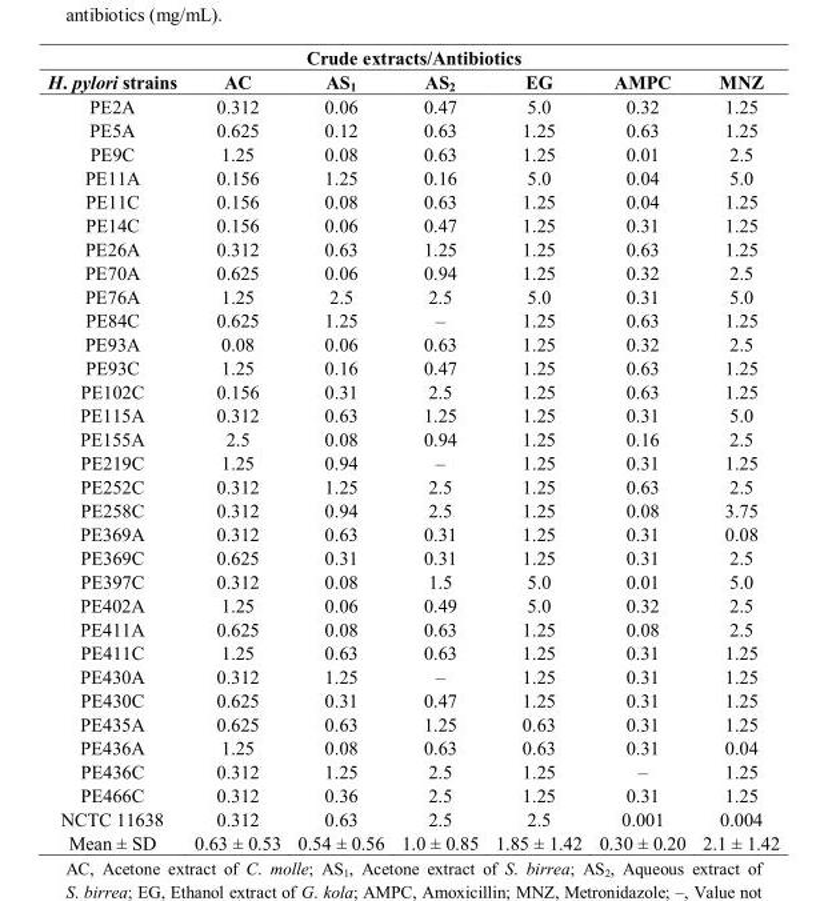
<table><thead><tr><td colspan="7">Crude extracts/Antibiotics</td></tr><tr><td>H. pylori strains</td><td>AC</td><td>AS<sub>1</sub></td><td>AS<sub>2</sub></td><td>EG</td><td>AMPC</td><td>MNZ</td></tr></thead><tbody><tr><td>PE2A</td><td>0.312</td><td>0.06</td><td>0.47</td><td>5.0</td><td>0.32</td><td>1.25</td></tr><tr><td>PE5A</td><td>0.625</td><td>0.12</td><td>0.63</td><td>1.25</td><td>0.63</td><td>1.25</td></tr><tr><td>PE9C</td><td>1.25</td><td>0.08</td><td>0.63</td><td>1.25</td><td>0.01</td><td>2.5</td></tr><tr><td>PE11A</td><td>0.156</td><td>1.25</td><td>0.16</td><td>5.0</td><td>0.04</td><td>5.0</td></tr><tr><td>PE11C</td><td>0.156</td><td>0.08</td><td>0.63</td><td>1.25</td><td>0.04</td><td>1.25</td></tr><tr><td>PE14C</td><td>0.156</td><td>0.06</td><td>0.47</td><td>1.25</td><td>0.31</td><td>1.25</td></tr><tr><td>PE26A</td><td>0.312</td><td>0.63</td><td>1.25</td><td>1.25</td><td>0.63</td><td>1.25</td></tr><tr><td>PE70A</td><td>0.625</td><td>0.06</td><td>0.94</td><td>1.25</td><td>0.32</td><td>2.5</td></tr><tr><td>PE76A</td><td>1.25</td><td>2.5</td><td>2.5</td><td>5.0</td><td>0.31</td><td>5.0</td></tr><tr><td>PE84C</td><td>0.625</td><td>1.25</td><td>–</td><td>1.25</td><td>0.63</td><td>1.25</td></tr><tr><td>PE93A</td><td>0.08</td><td>0.06</td><td>0.63</td><td>1.25</td><td>0.32</td><td>2.5</td></tr><tr><td>PE93C</td><td>1.25</td><td>0.16</td><td>0.47</td><td>1.25</td><td>0.63</td><td>1.25</td></tr><tr><td>PE102C</td><td>0.156</td><td>0.31</td><td>2.5</td><td>1.25</td><td>0.63</td><td>1.25</td></tr><tr><td>PE115A</td><td>0.312</td><td>0.63</td><td>1.25</td><td>1.25</td><td>0.31</td><td>5.0</td></tr><tr><td>PE155A</td><td>2.5</td><td>0.08</td><td>0.94</td><td>1.25</td><td>0.16</td><td>2.5</td></tr><tr><td>PE219C</td><td>1.25</td><td>0.94</td><td>–</td><td>1.25</td><td>0.31</td><td>1.25</td></tr><tr><td>PE252C</td><td>0.312</td><td>1.25</td><td>2.5</td><td>1.25</td><td>0.63</td><td>2.5</td></tr><tr><td>PE258C</td><td>0.312</td><td>0.94</td><td>2.5</td><td>1.25</td><td>0.08</td><td>3.75</td></tr><tr><td>PE369A</td><td>0.312</td><td>0.63</td><td>0.31</td><td>1.25</td><td>0.31</td><td>0.08</td></tr><tr><td>PE369C</td><td>0.625</td><td>0.31</td><td>0.31</td><td>1.25</td><td>0.31</td><td>2.5</td></tr><tr><td>PE397C</td><td>0.312</td><td>0.08</td><td>1.5</td><td>5.0</td><td>0.01</td><td>5.0</td></tr><tr><td>PE402A</td><td>1.25</td><td>0.06</td><td>0.49</td><td>5.0</td><td>0.32</td><td>2.5</td></tr><tr><td>PE411A</td><td>0.625</td><td>0.08</td><td>0.63</td><td>1.25</td><td>0.08</td><td>2.5</td></tr><tr><td>PE411C</td><td>1.25</td><td>0.63</td><td>0.63</td><td>1.25</td><td>0.31</td><td>1.25</td></tr><tr><td>PE430A</td><td>0.312</td><td>1.25</td><td>–</td><td>1.25</td><td>0.31</td><td>1.25</td></tr><tr><td>PE430C</td><td>0.625</td><td>0.31</td><td>0.47</td><td>1.25</td><td>0.31</td><td>1.25</td></tr><tr><td>PE435A</td><td>0.625</td><td>0.63</td><td>1.25</td><td>0.63</td><td>0.31</td><td>1.25</td></tr><tr><td>PE436A</td><td>1.25</td><td>0.08</td><td>0.63</td><td>0.63</td><td>0.31</td><td>0.04</td></tr><tr><td>PE436C</td><td>0.312</td><td>1.25</td><td>2.5</td><td>1.25</td><td>–</td><td>1.25</td></tr><tr><td>PE466C</td><td>0.312</td><td>0.36</td><td>2.5</td><td>1.25</td><td>0.31</td><td>1.25</td></tr><tr><td>NCTC 11638</td><td>0.312</td><td>0.63</td><td>2.5</td><td>2.5</td><td>0.001</td><td>0.004</td></tr><tr><td>Mean ± SD</td><td>0.63 ± 0.53</td><td>0.54 ± 0.56</td><td>1.0 ± 0.85</td><td>1.85 ± 1.42</td><td>0.30 ± 0.20</td><td>2.1 ± 1.42</td></tr></tbody></table>